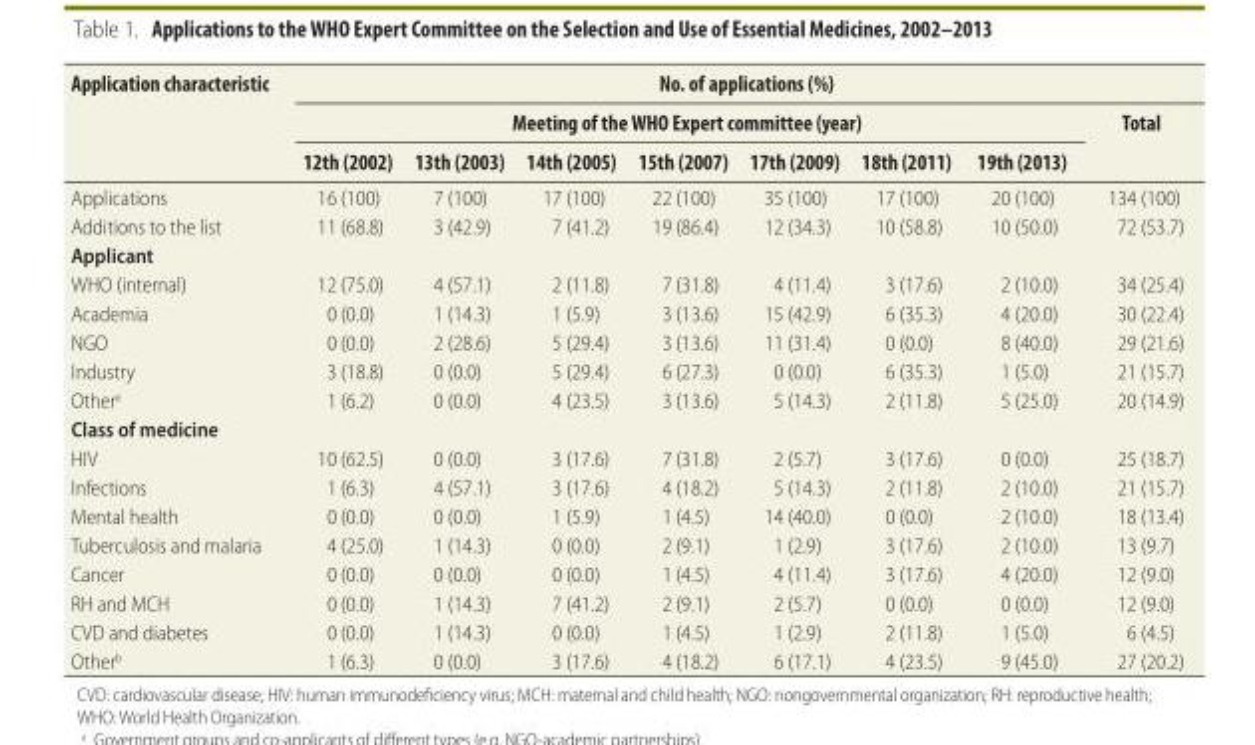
<table><thead><tr><td rowspan="3">Application characteristic</td><td colspan="8">No. of applications (%)</td></tr><tr><td colspan="7">Meeting of the WHO Expert committee (year)</td><td rowspan="2">Total</td></tr><tr><td>12th (2002)</td><td>13th (2003)</td><td>14th (2005)</td><td>15th (2007)</td><td>17th (2009)</td><td>18th (2011)</td><td>19th (2013)</td></tr></thead><tbody><tr><td>Applications</td><td>16 (100)</td><td>7 (100)</td><td>17 (100)</td><td>22 (100)</td><td>35 (100)</td><td>17 (100)</td><td>20 (100)</td><td>134 (100)</td></tr><tr><td>Additions to the list</td><td>11 (68.8)</td><td>3 (42.9)</td><td>7 (41.2)</td><td>19 (86.4)</td><td>12 (34.3)</td><td>10 (58.8)</td><td>10 (50.0)</td><td>72 (53.7)</td></tr><tr><td colspan="9">Applicant</td></tr><tr><td>WHO (internal)</td><td>12 (75.0)</td><td>4 (57.1)</td><td>2 (11.8)</td><td>7 (31.8)</td><td>4 (11.4)</td><td>3 (17.6)</td><td>2 (10.0)</td><td>34 (25.4)</td></tr><tr><td>Academia</td><td>0 (0.0)</td><td>1 (14.3)</td><td>1 (5.9)</td><td>3 (13.6)</td><td>15 (42.9)</td><td>6 (35.3)</td><td>4 (20.0)</td><td>30 (22.4)</td></tr><tr><td>NGO</td><td>0 (0.0)</td><td>2 (28.6)</td><td>5 (29.4)</td><td>3 (13.6)</td><td>11 (31.4)</td><td>0 (0.0)</td><td>8 (40.0)</td><td>29 (21.6)</td></tr><tr><td>Industry</td><td>3 (18.8)</td><td>0 (0.0)</td><td>5 (29.4)</td><td>6 (27.3)</td><td>0 (0.0)</td><td>6 (35.3)</td><td>1 (5.0)</td><td>21 (15.7)</td></tr><tr><td>Other<sup>a</sup></td><td>1 (6.2)</td><td>0 (0.0)</td><td>4 (23.5)</td><td>3 (13.6)</td><td>5 (14.3)</td><td>2 (11.8)</td><td>5 (25.0)</td><td>20 (14.9)</td></tr><tr><td colspan="9">Class of medicine</td></tr><tr><td>HIV</td><td>10 (62.5)</td><td>0 (0.0)</td><td>3 (17.6)</td><td>7 (31.8)</td><td>2 (5.7)</td><td>3 (17.6)</td><td>0 (0.0)</td><td>25 (18.7)</td></tr><tr><td>Infections</td><td>1 (6.3)</td><td>4 (57.1)</td><td>3 (17.6)</td><td>4 (18.2)</td><td>5 (14.3)</td><td>2 (11.8)</td><td>2 (10.0)</td><td>21 (15.7)</td></tr><tr><td>Mental health</td><td>0 (0.0)</td><td>0 (0.0)</td><td>1 (5.9)</td><td>1 (4.5)</td><td>14 (40.0)</td><td>0 (0.0)</td><td>2 (10.0)</td><td>18 (13.4)</td></tr><tr><td>Tuberculosis and malaria</td><td>4 (25.0)</td><td>1 (14.3)</td><td>0 (0.0)</td><td>2 (9.1)</td><td>1 (2.9)</td><td>3 (17.6)</td><td>2 (10.0)</td><td>13 (9.7)</td></tr><tr><td>Cancer</td><td>0 (0.0)</td><td>0 (0.0)</td><td>0 (0.0)</td><td>1 (4.5)</td><td>4 (11.4)</td><td>3 (17.6)</td><td>4 (20.0)</td><td>12 (9.0)</td></tr><tr><td>RH and MCH</td><td>0 (0.0)</td><td>1 (14.3)</td><td>7 (41.2)</td><td>2 (9.1)</td><td>2 (5.7)</td><td>0 (0.0)</td><td>0 (0.0)</td><td>12 (9.0)</td></tr><tr><td>CVD and diabetes</td><td>0 (0.0)</td><td>1 (14.3)</td><td>0 (0.0)</td><td>1 (4.5)</td><td>1 (2.9)</td><td>2 (11.8)</td><td>1 (5.0)</td><td>6 (4.5)</td></tr><tr><td>Other<sup>b</sup></td><td>1 (6.3)</td><td>0 (0.0)</td><td>3 (17.6)</td><td>4 (18.2)</td><td>6 (17.1)</td><td>4 (23.5)</td><td>9 (45.0)</td><td>27 (20.2)</td></tr></tbody></table>